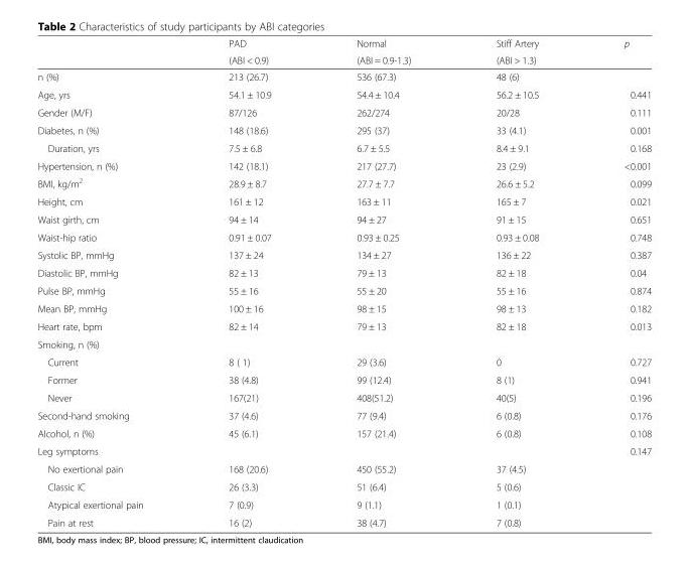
<table><thead><tr><td rowspan="2"></td><td rowspan="2">PAD (ABI &lt; 0.9)</td><td rowspan="2">Normal (ABI = 0.9-1.3)</td><td rowspan="2">Stiff Artery (ABI &gt; 1.3)</td><td rowspan="2">p</td></tr><tr></tr></thead><tbody><tr><td>n (%)</td><td>213 (26.7)</td><td>536 (67.3)</td><td>48 (6)</td><td></td></tr><tr><td>Age, yrs</td><td>54.1 ± 10.9</td><td>54.4 ± 10.4</td><td>56.2 ± 10.5</td><td>0.441</td></tr><tr><td>Gender (M/F)</td><td>87/126</td><td>262/274</td><td>20/28</td><td>0.111</td></tr><tr><td>Diabetes, n (%)</td><td>148 (18.6)</td><td>295 (37)</td><td>33 (4.1)</td><td>0.001</td></tr><tr><td>Duration, yrs</td><td>7.5 ± 6.8</td><td>6.7 ± 5.5</td><td>8.4 ± 9.1</td><td>0.168</td></tr><tr><td>Hypertension, n (%)</td><td>142 (18.1)</td><td>217 (27.7)</td><td>23 (2.9)</td><td>&lt;0.001</td></tr><tr><td>BMI, kg/m<sup>2</sup></td><td>28.9 ± 8.7</td><td>27.7 ± 7.7</td><td>26.6 ± 5.2</td><td>0.099</td></tr><tr><td>Height, cm</td><td>161 ± 12</td><td>163 ± 11</td><td>165 ± 7</td><td>0.021</td></tr><tr><td>Waist girth, cm</td><td>94 ± 14</td><td>94 ± 27</td><td>91 ± 15</td><td>0.651</td></tr><tr><td>Waist-hip ratio</td><td>0.91 ± 0.07</td><td>0.93 ± 0.25</td><td>0.93 ± 0.08</td><td>0.748</td></tr><tr><td>Systolic BP, mmHg</td><td>137 ± 24</td><td>134 ± 27</td><td>136 ± 22</td><td>0.387</td></tr><tr><td>Diastolic BP, mmHg</td><td>82 ± 13</td><td>79 ± 13</td><td>82 ± 18</td><td>0.04</td></tr><tr><td>Pulse BP, mmHg</td><td>55 ± 16</td><td>55 ± 20</td><td>55 ± 16</td><td>0.874</td></tr><tr><td>Mean BP, mmHg</td><td>100 ± 16</td><td>98 ± 15</td><td>98 ± 13</td><td>0.182</td></tr><tr><td>Heart rate, bpm</td><td>82 ± 14</td><td>79 ± 13</td><td>82 ± 18</td><td>0.013</td></tr><tr><td colspan="5">Smoking, n (%)</td></tr><tr><td>Current</td><td>8 ( 1)</td><td>29 (3.6)</td><td>0</td><td>0.727</td></tr><tr><td>Former</td><td>38 (4.8)</td><td>99 (12.4)</td><td>8 (1)</td><td>0.941</td></tr><tr><td>Never</td><td>167(21)</td><td>408(51.2)</td><td>40(5)</td><td>0.196</td></tr><tr><td>Second-hand smoking</td><td>37 (4.6)</td><td>77 (9.4)</td><td>6 (0.8)</td><td>0.176</td></tr><tr><td>Alcohol, n (%)</td><td>45 (6.1)</td><td>157 (21.4)</td><td>6 (0.8)</td><td>0.108</td></tr><tr><td>Leg symptoms</td><td></td><td></td><td></td><td>0.147</td></tr><tr><td>No exertional pain</td><td>168 (20.6)</td><td>450 (55.2)</td><td>37 (4.5)</td><td></td></tr><tr><td>Classic IC</td><td>26 (3.3)</td><td>51 (6.4)</td><td>5 (0.6)</td><td></td></tr><tr><td>Atypical exertional pain</td><td>7 (0.9)</td><td>9 (1.1)</td><td>1 (0.1)</td><td></td></tr><tr><td>Pain at rest</td><td>16 (2)</td><td>38 (4.7)</td><td>7 (0.8)</td><td></td></tr></tbody></table>